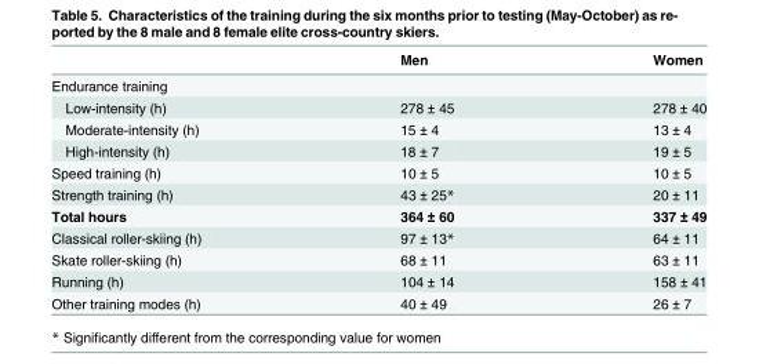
<table><thead><tr><td></td><td>Men</td><td>Women</td></tr></thead><tbody><tr><td colspan="3">Endurance training</td></tr><tr><td>Low-intensity (h)</td><td>278 ± 45</td><td>278 ± 40</td></tr><tr><td>Moderate-intensity (h)</td><td>15 ± 4</td><td>13 ± 4</td></tr><tr><td>High-intensity (h)</td><td>18 ± 7</td><td>19 ± 5</td></tr><tr><td>Speed training (h)</td><td>10 ± 5</td><td>10 ± 5</td></tr><tr><td>Strength training (h)</td><td>43 ± 25*</td><td>20 ± 11</td></tr><tr><td>Total hours</td><td>364 ± 60</td><td>337 ± 49</td></tr><tr><td>Classical roller-skiing (h)</td><td>97 ± 13*</td><td>64 ± 11</td></tr><tr><td>Skate roller-skiing (h)</td><td>68 ± 11</td><td>63 ± 11</td></tr><tr><td>Running (h)</td><td>104 ± 14</td><td>158 ± 41</td></tr><tr><td>Other training modes (h)</td><td>40 ± 49</td><td>26 ± 7</td></tr></tbody></table>